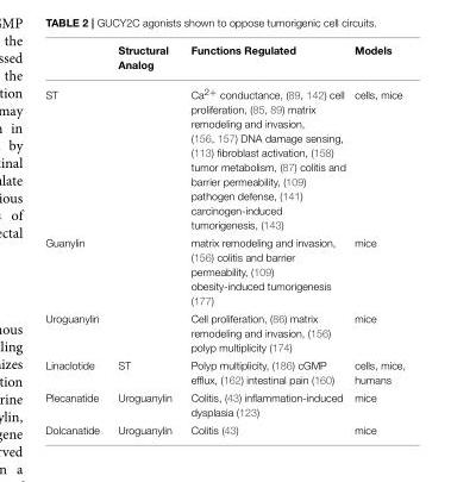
<table><thead><tr><td></td><td>Structural Analog</td><td>Functions Regulated</td><td>Models</td></tr></thead><tbody><tr><td>ST</td><td></td><td>Ca2+ conductance, (89, 142) cell proliferation, (85, 89) matrix remodeling and invasion, (156, 157) DNA damage sensing, (113) fibroblast activation, (158) tumor metabolism, (87) colitis and barrier permeability, (109) pathogen defense, (141) carcinogen-induced tumorigenesis, (143)</td><td>cells, mice</td></tr><tr><td>Guanylin</td><td></td><td>matrix remodeling and invasion, (156) colitis and barrier permeability, (109) obesity-induced tumorigenesis (177)</td><td>mice</td></tr><tr><td>Uroguanylin</td><td></td><td>Cell proliferation, (86) matrix remodeling and invasion, (156) polyp multiplicity (174)</td><td>mice</td></tr><tr><td>Linaclotide</td><td>ST</td><td>Polyp multiplicity, (186) cGMP efflux, (162) intestinal pain (160)</td><td>cells, mice, humans</td></tr><tr><td>Plecanatide</td><td>Uroguanylin</td><td>Colitis, (43) inflammation-induced dysplasia (123)</td><td>mice</td></tr><tr><td>Dolcanatide</td><td>Uroguanylin</td><td>Colitis (43)</td><td>mice</td></tr></tbody></table>